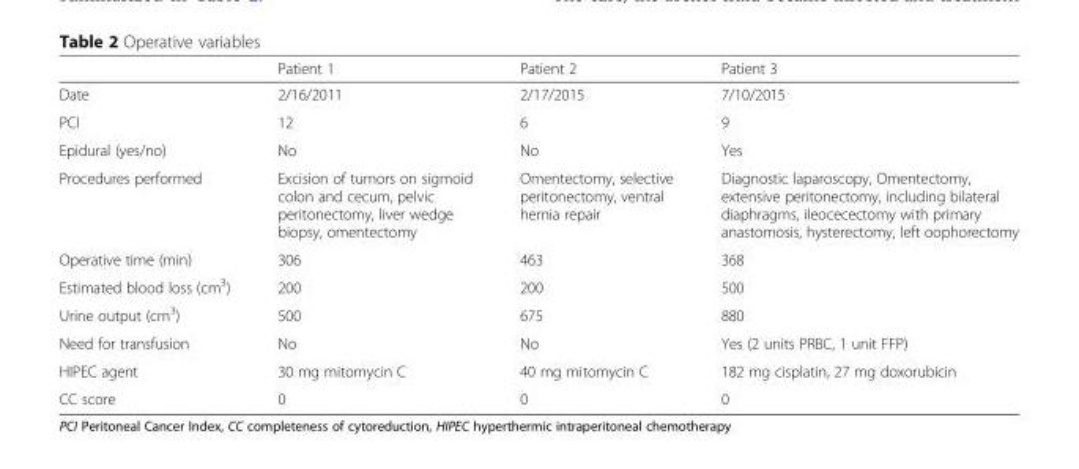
<table><thead><tr><td></td><td>Patient 1</td><td>Patient 2</td><td>Patient 3</td></tr></thead><tbody><tr><td>Date</td><td>2/16/2011</td><td>2/17/2015</td><td>7/10/2015</td></tr><tr><td>PCI</td><td>12</td><td>6</td><td>9</td></tr><tr><td>Epidural (yes/no)</td><td>No</td><td>No</td><td>Yes</td></tr><tr><td>Procedures performed</td><td>Excision of tumors on sigmoid colon and cecum, pelvic peritonectomy, liver wedge biopsy, omentectomy</td><td>Omentectomy, selective peritonectomy, ventral hernia repair</td><td>Diagnostic laparoscopy, Omentectomy, extensive peritonectomy, including bilateral diaphragms, ileocecectomy with primary anastomosis, hysterectomy, left oophorectomy</td></tr><tr><td>Operative time (min)</td><td>306</td><td>463</td><td>368</td></tr><tr><td>Estimated blood loss (cm<sup>3</sup>)</td><td>200</td><td>200</td><td>500</td></tr><tr><td>Urine output (cm<sup>3</sup>)</td><td>500</td><td>675</td><td>880</td></tr><tr><td>Need for transfusion</td><td>No</td><td>No</td><td>Yes (2 units PRBC, 1 unit FFP)</td></tr><tr><td>HIPEC agent</td><td>30 mg mitomycin C</td><td>40 mg mitomycin C</td><td>182 mg cisplatin, 27 mg doxorubicin</td></tr><tr><td>CC score</td><td>0</td><td>0</td><td>0</td></tr></tbody></table>